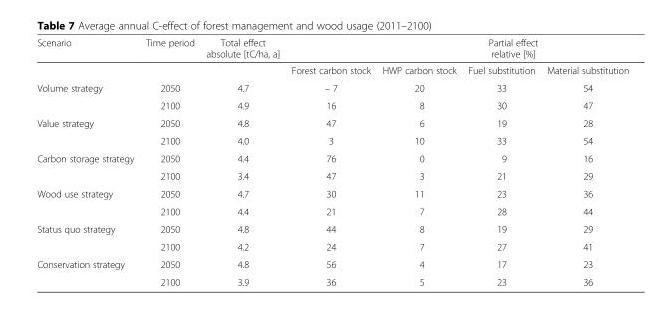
<table><thead><tr><td rowspan="2">Scenario</td><td rowspan="2">Time period</td><td rowspan="2">Total effect absolute [tC/ha, a]</td><td rowspan="2">Forest carbon stock</td><td colspan="3">Partial effect relative [%]</td></tr><tr><td>HWP carbon stock</td><td>Fuel substitution</td><td>Material substitution</td></tr></thead><tbody><tr><td rowspan="2">Volume strategy</td><td>2050</td><td>4.7</td><td>– 7</td><td>20</td><td>33</td><td>54</td></tr><tr><td>2100</td><td>4.9</td><td>16</td><td>8</td><td>30</td><td>47</td></tr><tr><td rowspan="2">Value strategy</td><td>2050</td><td>4.8</td><td>47</td><td>6</td><td>19</td><td>28</td></tr><tr><td>2100</td><td>4.0</td><td>3</td><td>10</td><td>33</td><td>54</td></tr><tr><td rowspan="2">Carbon storage strategy</td><td>2050</td><td>4.4</td><td>76</td><td>0</td><td>9</td><td>16</td></tr><tr><td>2100</td><td>3.4</td><td>47</td><td>3</td><td>21</td><td>29</td></tr><tr><td rowspan="2">Wood use strategy</td><td>2050</td><td>4.7</td><td>30</td><td>11</td><td>23</td><td>36</td></tr><tr><td>2100</td><td>4.4</td><td>21</td><td>7</td><td>28</td><td>44</td></tr><tr><td rowspan="2">Status quo strategy</td><td>2050</td><td>4.8</td><td>44</td><td>8</td><td>19</td><td>29</td></tr><tr><td>2100</td><td>4.2</td><td>24</td><td>7</td><td>27</td><td>41</td></tr><tr><td rowspan="2">Conservation strategy</td><td>2050</td><td>4.8</td><td>56</td><td>4</td><td>17</td><td>23</td></tr><tr><td>2100</td><td>3.9</td><td>36</td><td>5</td><td>23</td><td>36</td></tr></tbody></table>